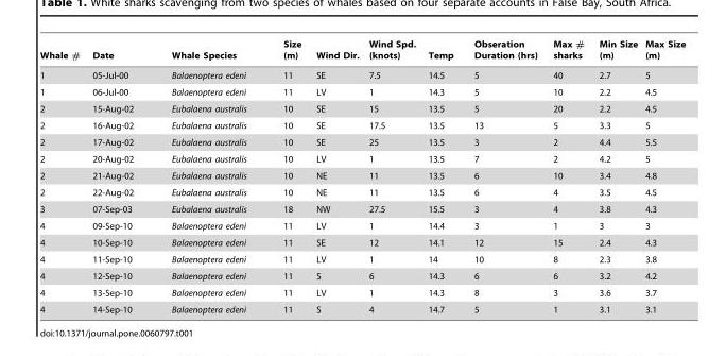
<table><thead><tr><td>Whale #</td><td>Date</td><td>Whale Species</td><td>Size (m)</td><td>Wind Dir.</td><td>Wind Spd. (knots)</td><td>Temp</td><td>Obseration Duration (hrs)</td><td>Max # sharks</td><td>Min Size (m)</td><td>Max Size (m)</td></tr></thead><tbody><tr><td>1</td><td>05-Jul-00</td><td>Balaenoptera edeni</td><td>11</td><td>SE</td><td>7.5</td><td>14.5</td><td>5</td><td>40</td><td>2.7</td><td>5</td></tr><tr><td>1</td><td>06-Jul-00</td><td>Balaenoptera edeni</td><td>11</td><td>LV</td><td>1</td><td>14.3</td><td>5</td><td>10</td><td>2.2</td><td>4.5</td></tr><tr><td>2</td><td>15-Aug-02</td><td>Eubalaena australis</td><td>10</td><td>SE</td><td>15</td><td>13.5</td><td>5</td><td>20</td><td>2.2</td><td>4.5</td></tr><tr><td>2</td><td>16-Aug-02</td><td>Eubalaena australis</td><td>10</td><td>SE</td><td>17.5</td><td>13.5</td><td>13</td><td>5</td><td>3.3</td><td>5</td></tr><tr><td>2</td><td>17-Aug-02</td><td>Eubalaena australis</td><td>10</td><td>SE</td><td>25</td><td>13.5</td><td>3</td><td>2</td><td>4.4</td><td>5.5</td></tr><tr><td>2</td><td>20-Aug-02</td><td>Eubalaena australis</td><td>10</td><td>LV</td><td>1</td><td>13.5</td><td>7</td><td>2</td><td>4.2</td><td>5</td></tr><tr><td>2</td><td>21-Aug-02</td><td>Eubalaena australis</td><td>10</td><td>NE</td><td>11</td><td>13.5</td><td>6</td><td>10</td><td>3.4</td><td>4.8</td></tr><tr><td>2</td><td>22-Aug-02</td><td>Eubalaena australis</td><td>10</td><td>NE</td><td>11</td><td>13.5</td><td>6</td><td>4</td><td>3.5</td><td>4.5</td></tr><tr><td>3</td><td>07-Sep-03</td><td>Eubalaena australis</td><td>18</td><td>NW</td><td>27.5</td><td>15.5</td><td>3</td><td>4</td><td>3.8</td><td>4.3</td></tr><tr><td>4</td><td>09-Sep-10</td><td>Balaenoptera edeni</td><td>11</td><td>LV</td><td>1</td><td>14.4</td><td>3</td><td>1</td><td>3</td><td>3</td></tr><tr><td>4</td><td>10-Sep-10</td><td>Balaenoptera edeni</td><td>11</td><td>SE</td><td>12</td><td>14.1</td><td>12</td><td>15</td><td>2.4</td><td>4.3</td></tr><tr><td>4</td><td>11-Sep-10</td><td>Balaenoptera edeni</td><td>11</td><td>LV</td><td>1</td><td>14</td><td>10</td><td>8</td><td>2.3</td><td>3.8</td></tr><tr><td>4</td><td>12-Sep-10</td><td>Balaenoptera edeni</td><td>11</td><td>S</td><td>6</td><td>14.3</td><td>6</td><td>6</td><td>3.2</td><td>4.2</td></tr><tr><td>4</td><td>13-Sep-10</td><td>Balaenoptera edeni</td><td>11</td><td>LV</td><td>1</td><td>14.3</td><td>8</td><td>3</td><td>3.6</td><td>3.7</td></tr><tr><td>4</td><td>14-Sep-10</td><td>Balaenoptera edeni</td><td>11</td><td>S</td><td>4</td><td>14.7</td><td>5</td><td>1</td><td>3.1</td><td>3.1</td></tr></tbody></table>